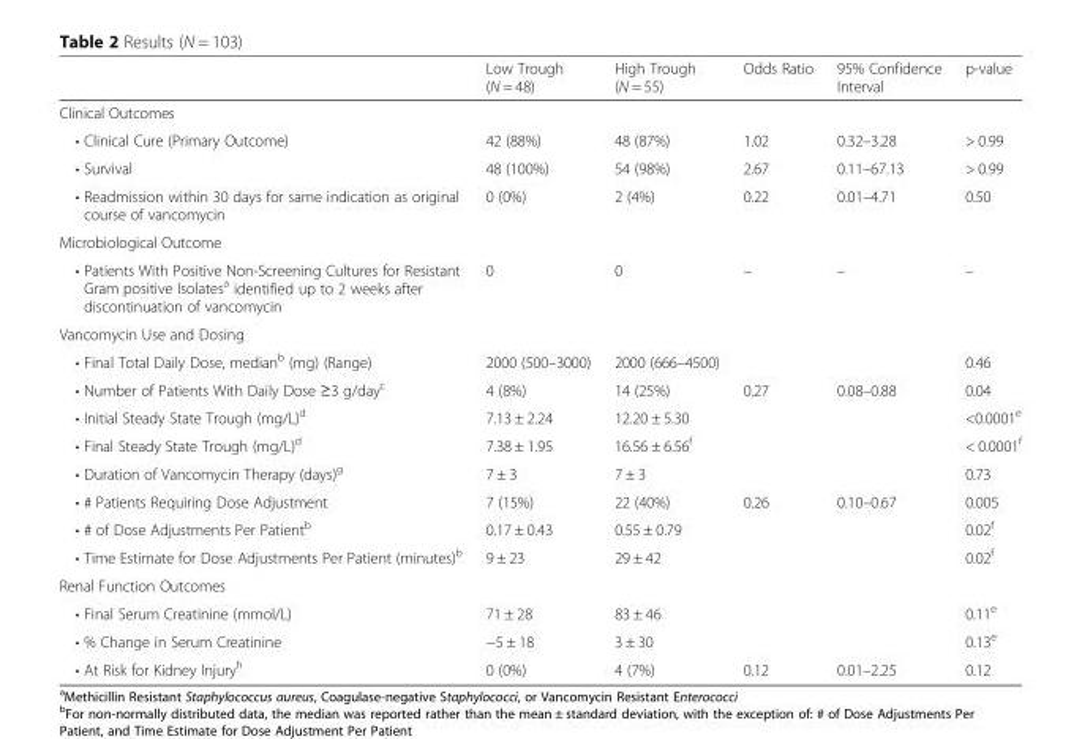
<table><thead><tr><td></td><td>Low Trough (N = 48)</td><td>High Trough (N = 55)</td><td>Odds Ratio</td><td>95% Confidence Interval</td><td>p-value</td></tr></thead><tbody><tr><td colspan="6">Clinical Outcomes</td></tr><tr><td>• Clinical Cure (Primary Outcome)</td><td>42 (88%)</td><td>48 (87%)</td><td>1.02</td><td>0.32–3.28</td><td>&gt; 0.99</td></tr><tr><td>• Survival</td><td>48 (100%)</td><td>54 (98%)</td><td>2.67</td><td>0.11–67.13</td><td>&gt; 0.99</td></tr><tr><td>• Readmission within 30 days for same indication as original course of vancomycin</td><td>0 (0%)</td><td>2 (4%)</td><td>0.22</td><td>0.01–4.71</td><td>0.50</td></tr><tr><td colspan="6">Microbiological Outcome</td></tr><tr><td>• Patients With Positive Non-Screening Cultures for Resistant Gram positive Isolates<sup>a</sup> identified up to 2 weeks after discontinuation of vancomycin</td><td>0</td><td>0</td><td>–</td><td>–</td><td>–</td></tr><tr><td colspan="6">Vancomycin Use and Dosing</td></tr><tr><td>• Final Total Daily Dose, median<sup>b</sup> (mg) (Range)</td><td>2000 (500–3000)</td><td>2000 (666–4500)</td><td></td><td></td><td>0.46</td></tr><tr><td>• Number of Patients With Daily Dose ≥3 g/day<sup>c</sup></td><td>4 (8%)</td><td>14 (25%)</td><td>0.27</td><td>0.08–0.88</td><td>0.04</td></tr><tr><td>• Initial Steady State Trough (mg/L)<sup>d</sup></td><td>7.13 ± 2.24</td><td>12.20 ± 5.30</td><td></td><td></td><td>&lt;0.0001<sup>e</sup></td></tr><tr><td>• Final Steady State Trough (mg/L)<sup>d</sup></td><td>7.38 ± 1.95</td><td>16.56 ± 6.56<sup>f</sup></td><td></td><td></td><td>&lt; 0.0001<sup>f</sup></td></tr><tr><td>• Duration of Vancomycin Therapy (days)<sup>g</sup></td><td>7 ± 3</td><td>7 ± 3</td><td></td><td></td><td>0.73</td></tr><tr><td>• # Patients Requiring Dose Adjustment</td><td>7 (15%)</td><td>22 (40%)</td><td>0.26</td><td>0.10–0.67</td><td>0.005</td></tr><tr><td>• # of Dose Adjustments Per Patient<sup>b</sup></td><td>0.17 ± 0.43</td><td>0.55 ± 0.79</td><td></td><td></td><td>0.02<sup>f</sup></td></tr><tr><td>• Time Estimate for Dose Adjustments Per Patient (minutes)<sup>b</sup></td><td>9 ± 23</td><td>29 ± 42</td><td></td><td></td><td>0.02<sup>f</sup></td></tr><tr><td colspan="6">Renal Function Outcomes</td></tr><tr><td>• Final Serum Creatinine (mmol/L)</td><td>71 ± 28</td><td>83 ± 46</td><td></td><td></td><td>0.11<sup>e</sup></td></tr><tr><td>• % Change in Serum Creatinine</td><td>−5 ± 18</td><td>3 ± 30</td><td></td><td></td><td>0.13<sup>e</sup></td></tr><tr><td>• At Risk for Kidney Injury<sup>h</sup></td><td>0 (0%)</td><td>4 (7%)</td><td>0.12</td><td>0.01–2.25</td><td>0.12</td></tr></tbody></table>